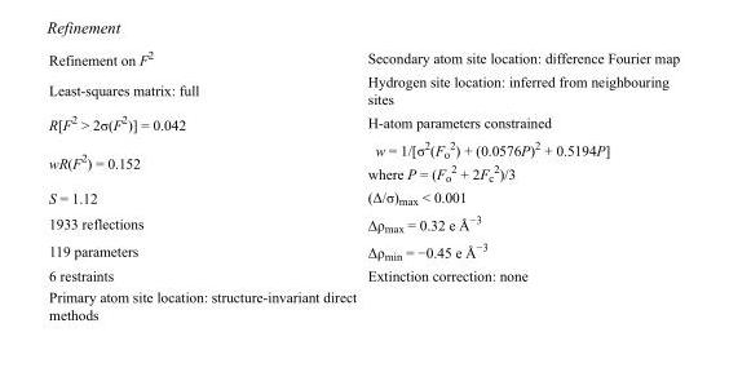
<table><tbody><tr><td>Refinement on F<sup>2</sup></td><td>Secondary atom site location: difference Fourier map</td></tr><tr><td>Least-squares matrix: full</td><td>Hydrogen site location: inferred from neighbouring sites</td></tr><tr><td>R[F<sup>2</sup> &gt; 2σ(F<sup>2</sup>)] = 0.042</td><td>H-atom parameters constrained</td></tr><tr><td>wR(F<sup>2</sup>) = 0.152</td><td>w = 1/[σ<sup>2</sup>(F<sub>o</sub> <sup>2</sup>) + (0.0576P)<sup>2</sup> + 0.5194P] where P = (F<sub>o</sub> <sup>2</sup> + 2F<sub>c</sub> <sup>2</sup>)/3</td></tr><tr><td>S = 1.12</td><td>(Δ/σ)<sub>max</sub> &lt; 0.001</td></tr><tr><td>1933 reflections</td><td>Δρ<sub>max</sub> = 0.32 e Å<sup>−3</sup></td></tr><tr><td>119 parameters</td><td>Δρ<sub>min</sub> = −0.45 e Å<sup>−3</sup></td></tr><tr><td>6 restraints</td><td>Extinction correction: none</td></tr><tr><td>Primary atom site location: structure-invariant direct methods</td><td></td></tr></tbody></table>